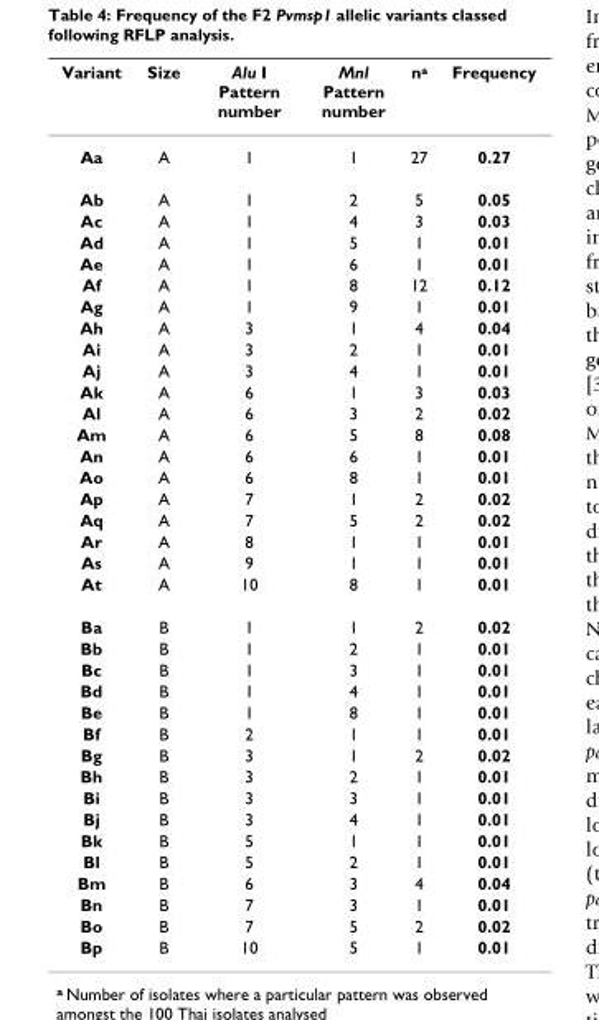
<table><thead><tr><td>Variant</td><td>Size</td><td>Alu I Pattern number</td><td>Mnl Pattern number</td><td>n<sup>a</sup></td><td>Frequency</td></tr></thead><tbody><tr><td>Aa</td><td>A</td><td>1</td><td>1</td><td>27</td><td>0.27</td></tr><tr><td>Ab</td><td>A</td><td>1</td><td>2</td><td>5</td><td>0.05</td></tr><tr><td>Ac</td><td>A</td><td>1</td><td>4</td><td>3</td><td>0.03</td></tr><tr><td>Ad</td><td>A</td><td>1</td><td>5</td><td>1</td><td>0.01</td></tr><tr><td>Ae</td><td>A</td><td>1</td><td>6</td><td>1</td><td>0.01</td></tr><tr><td>Af</td><td>A</td><td>1</td><td>8</td><td>12</td><td>0.12</td></tr><tr><td>Ag</td><td>A</td><td>1</td><td>9</td><td>1</td><td>0.01</td></tr><tr><td>Ah</td><td>A</td><td>3</td><td>1</td><td>4</td><td>0.04</td></tr><tr><td>Ai</td><td>A</td><td>3</td><td>2</td><td>1</td><td>0.01</td></tr><tr><td>Aj</td><td>A</td><td>3</td><td>4</td><td>1</td><td>0.01</td></tr><tr><td>Ak</td><td>A</td><td>6</td><td>1</td><td>3</td><td>0.03</td></tr><tr><td>Al</td><td>A</td><td>6</td><td>3</td><td>2</td><td>0.02</td></tr><tr><td>Am</td><td>A</td><td>6</td><td>5</td><td>8</td><td>0.08</td></tr><tr><td>An</td><td>A</td><td>6</td><td>6</td><td>1</td><td>0.01</td></tr><tr><td>Ao</td><td>A</td><td>6</td><td>8</td><td>1</td><td>0.01</td></tr><tr><td>Ap</td><td>A</td><td>7</td><td>1</td><td>2</td><td>0.02</td></tr><tr><td>Aq</td><td>A</td><td>7</td><td>5</td><td>2</td><td>0.02</td></tr><tr><td>Ar</td><td>A</td><td>8</td><td>1</td><td>1</td><td>0.01</td></tr><tr><td>As</td><td>A</td><td>9</td><td>1</td><td>1</td><td>0.01</td></tr><tr><td>At</td><td>A</td><td>10</td><td>8</td><td>1</td><td>0.01</td></tr><tr><td>Ba</td><td>B</td><td>1</td><td>1</td><td>2</td><td>0.02</td></tr><tr><td>Bb</td><td>B</td><td>1</td><td>2</td><td>1</td><td>0.01</td></tr><tr><td>Bc</td><td>B</td><td>1</td><td>3</td><td>1</td><td>0.01</td></tr><tr><td>Bd</td><td>B</td><td>1</td><td>4</td><td>1</td><td>0.01</td></tr><tr><td>Be</td><td>B</td><td>1</td><td>8</td><td>1</td><td>0.01</td></tr><tr><td>Bf</td><td>B</td><td>2</td><td>1</td><td>1</td><td>0.01</td></tr><tr><td>Bg</td><td>B</td><td>3</td><td>1</td><td>2</td><td>0.02</td></tr><tr><td>Bh</td><td>B</td><td>3</td><td>2</td><td>1</td><td>0.01</td></tr><tr><td>Bi</td><td>B</td><td>3</td><td>3</td><td>1</td><td>0.01</td></tr><tr><td>Bj</td><td>B</td><td>3</td><td>4</td><td>1</td><td>0.01</td></tr><tr><td>Bk</td><td>B</td><td>5</td><td>1</td><td>1</td><td>0.01</td></tr><tr><td>Bl</td><td>B</td><td>5</td><td>2</td><td>1</td><td>0.01</td></tr><tr><td>Bm</td><td>B</td><td>6</td><td>3</td><td>4</td><td>0.04</td></tr><tr><td>Bn</td><td>B</td><td>7</td><td>3</td><td>1</td><td>0.01</td></tr><tr><td>Bo</td><td>B</td><td>7</td><td>5</td><td>2</td><td>0.02</td></tr><tr><td>Bp</td><td>B</td><td>10</td><td>5</td><td>1</td><td>0.01</td></tr></tbody></table>